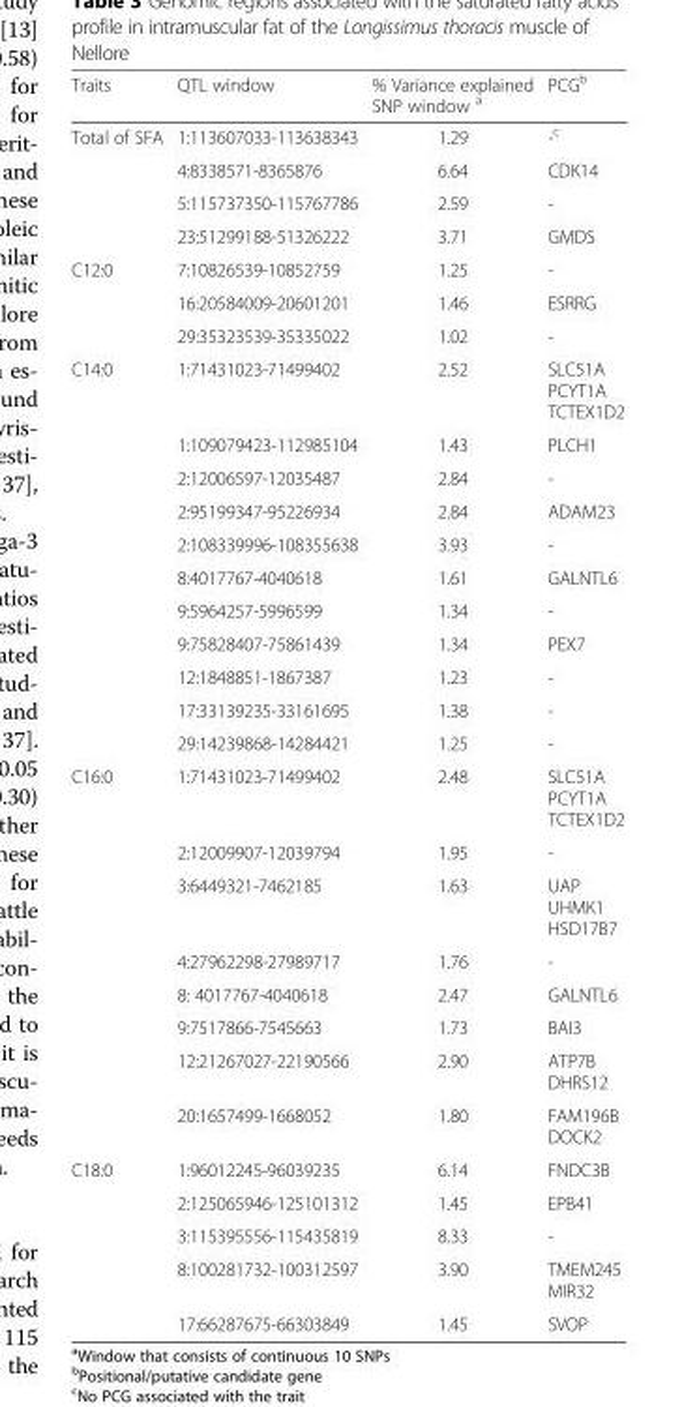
<table><thead><tr><td>Traits</td><td>QTL window</td><td>% Variance explained SNP window <sup>a</sup></td><td>PCG<sup>b</sup></td></tr></thead><tbody><tr><td rowspan="4">Total of SFA</td><td>1:113607033-113638343</td><td>1.29</td><td>-<sup>c</sup></td></tr><tr><td>4:8338571-8365876</td><td>6.64</td><td>CDK14</td></tr><tr><td>5:115737350-115767786</td><td>2.59</td><td>-</td></tr><tr><td>23:51299188-51326222</td><td>3.71</td><td>GMDS</td></tr><tr><td rowspan="3">C12:0</td><td>7:10826539-10852759</td><td>1.25</td><td>-</td></tr><tr><td>16:20584009-20601201</td><td>1.46</td><td>ESRRG</td></tr><tr><td>29:35323539-35335022</td><td>1.02</td><td>-</td></tr><tr><td rowspan="11">C14:0</td><td>1:71431023-71499402</td><td>2.52</td><td>SLC51A PCYT1A TCTEX1D2</td></tr><tr><td>1:109079423-112985104</td><td>1.43</td><td>PLCH1</td></tr><tr><td>2:12006597-12035487</td><td>2.84</td><td>-</td></tr><tr><td>2:95199347-95226934</td><td>2.84</td><td>ADAM23</td></tr><tr><td>2:108339996-108355638</td><td>3.93</td><td>-</td></tr><tr><td>8:4017767-4040618</td><td>1.61</td><td>GALNTL6</td></tr><tr><td>9:5964257-5996599</td><td>1.34</td><td>-</td></tr><tr><td>9:75828407-75861439</td><td>1.34</td><td>PEX7</td></tr><tr><td>12:1848851-1867387</td><td>1.23</td><td>-</td></tr><tr><td>17:33139235-33161695</td><td>1.38</td><td>-</td></tr><tr><td>29:14239868-14284421</td><td>1.25</td><td>-</td></tr><tr><td rowspan="8">C16:0</td><td>1:71431023-71499402</td><td>2.48</td><td>SLC51A PCYT1A TCTEX1D2</td></tr><tr><td>2:12009907-12039794</td><td>1.95</td><td>-</td></tr><tr><td>3:6449321-7462185</td><td>1.63</td><td>UAP UHMK1 HSD17B7</td></tr><tr><td>4:27962298-27989717</td><td>1.76</td><td>-</td></tr><tr><td>8: 4017767-4040618</td><td>2.47</td><td>GALNTL6</td></tr><tr><td>9:7517866-7545663</td><td>1.73</td><td>BAI3</td></tr><tr><td>12:21267027-22190566</td><td>2.90</td><td>ATP7B DHRS12</td></tr><tr><td>20:1657499-1668052</td><td>1.80</td><td>FAM196B DOCK2</td></tr><tr><td rowspan="5">C18:0</td><td>1:96012245-96039235</td><td>6.14</td><td>FNDC3B</td></tr><tr><td>2:125065946-125101312</td><td>1.45</td><td>EPB41</td></tr><tr><td>3:115395556-115435819</td><td>8.33</td><td>-</td></tr><tr><td>8:100281732-100312597</td><td>3.90</td><td>TMEM245 MIR32</td></tr><tr><td>17:66287675-66303849</td><td>1.45</td><td>SVOP</td></tr></tbody></table>